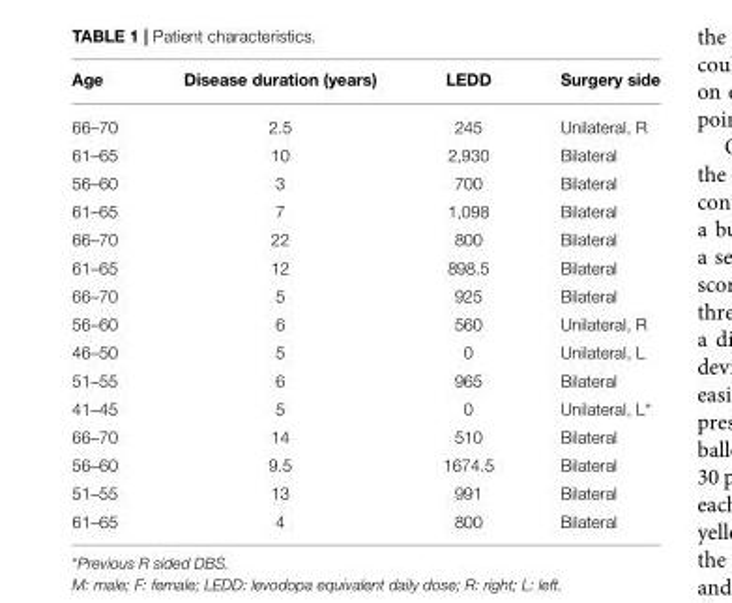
<table><thead><tr><td>Age</td><td>Disease duration (years)</td><td>LEDD</td><td>Surgery side</td></tr></thead><tbody><tr><td>66–70</td><td>2.5</td><td>245</td><td>Unilateral, R</td></tr><tr><td>61–65</td><td>10</td><td>2,930</td><td>Bilateral</td></tr><tr><td>56–60</td><td>3</td><td>700</td><td>Bilateral</td></tr><tr><td>61–65</td><td>7</td><td>1,098</td><td>Bilateral</td></tr><tr><td>66–70</td><td>22</td><td>800</td><td>Bilateral</td></tr><tr><td>61–65</td><td>12</td><td>898.5</td><td>Bilateral</td></tr><tr><td>66–70</td><td>5</td><td>925</td><td>Bilateral</td></tr><tr><td>56–60</td><td>6</td><td>560</td><td>Unilateral, R</td></tr><tr><td>46–50</td><td>5</td><td>0</td><td>Unilateral, L</td></tr><tr><td>51–55</td><td>6</td><td>965</td><td>Bilateral</td></tr><tr><td>41–45</td><td>5</td><td>0</td><td>Unilateral, L*</td></tr><tr><td>66–70</td><td>14</td><td>510</td><td>Bilateral</td></tr><tr><td>56–60</td><td>9.5</td><td>1674.5</td><td>Bilateral</td></tr><tr><td>51–55</td><td>13</td><td>991</td><td>Bilateral</td></tr><tr><td>61–65</td><td>4</td><td>800</td><td>Bilateral</td></tr></tbody></table>